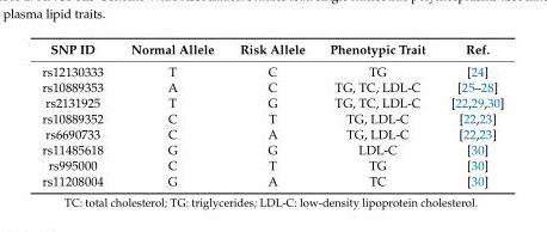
<table><thead><tr><td>SNP ID</td><td>Normal Allele</td><td>Risk Allele</td><td>Phenotypic Trait</td><td>Ref.</td></tr></thead><tbody><tr><td>rs12130333</td><td>T</td><td>C</td><td>TG</td><td>[24]</td></tr><tr><td>rs10889353</td><td>A</td><td>C</td><td>TG, TC, LDL-C</td><td>[25–28]</td></tr><tr><td>rs2131925</td><td>T</td><td>G</td><td>TG, TC, LDL-C</td><td>[22,29,30]</td></tr><tr><td>rs10889352</td><td>C</td><td>T</td><td>TG, LDL-C</td><td>[22,23]</td></tr><tr><td>rs6690733</td><td>C</td><td>A</td><td>TG, LDL-C</td><td>[22,23]</td></tr><tr><td>rs11485618</td><td>G</td><td>G</td><td>LDL-C</td><td>[30]</td></tr><tr><td>rs995000</td><td>C</td><td>T</td><td>TG</td><td>[30]</td></tr><tr><td>rs11208004</td><td>G</td><td>A</td><td>TC</td><td>[30]</td></tr></tbody></table>